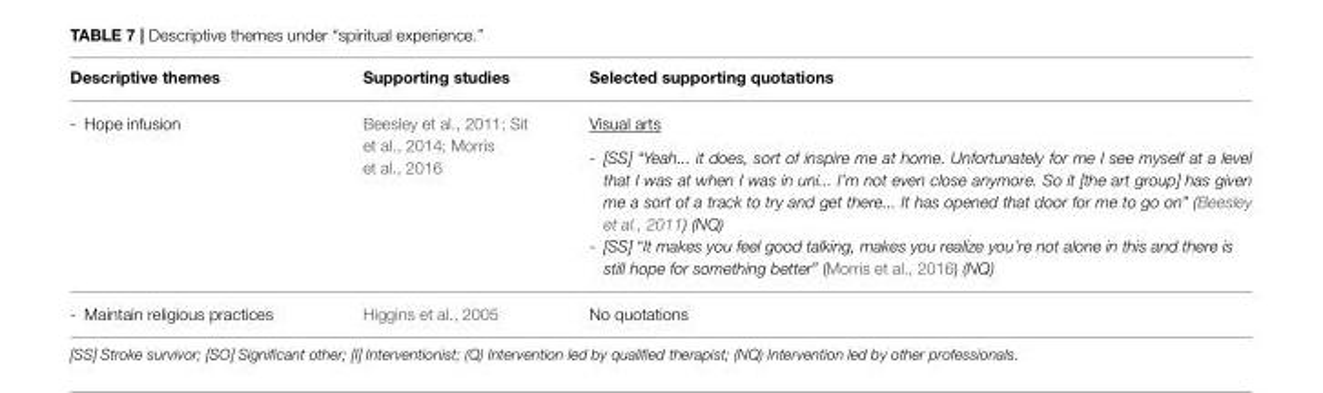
<table><thead><tr><td>Descriptive themes</td><td>Supporting studies</td><td>Selected supporting quotations</td></tr></thead><tbody><tr><td>- Hope infusion</td><td>Beesley et al., 2011; Sit et al., 2014; Morris et al., 2016</td><td>Visual arts - [SS] “Yeah... it does, sort of inspire me at home. Unfortunately for me I see myself at a level that I was at when I was in uni... I’m not even close anymore. So it [the art group] has given me a sort of a track to try and get there... It has opened that door for me to go on” (Beesley et al., 2011) (NQ) - [SS] “It makes you feel good talking, makes you realize you’re not alone in this and there is still hope for something better” (Morris et al., 2016) (NQ)</td></tr><tr><td>- Maintain religious practices</td><td>Higgins et al., 2005</td><td>No quotations</td></tr></tbody></table>